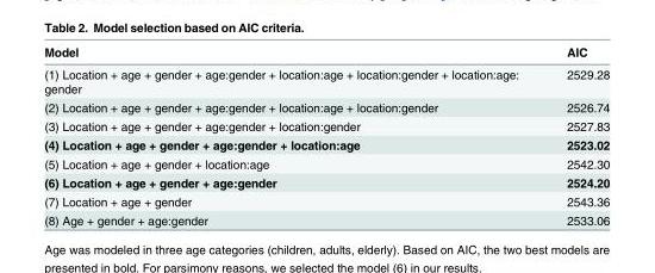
<table><thead><tr><td>Model</td><td>AIC</td></tr></thead><tbody><tr><td>(1) Location + age + gender + age:gender + location:age + location:gender + location:age: gender</td><td>2529.28</td></tr><tr><td>(2) Location + age + gender + age:gender + location:age + location:gender</td><td>2526.74</td></tr><tr><td>(3) Location + age + gender + age:gender + location:gender</td><td>2527.83</td></tr><tr><td>(4) Location + age + gender + age:gender + location:age</td><td>2523.02</td></tr><tr><td>(5) Location + age + gender + location:age</td><td>2542.30</td></tr><tr><td>(6) Location + age + gender + age:gender</td><td>2524.20</td></tr><tr><td>(7) Location + age + gender</td><td>2543.36</td></tr><tr><td>(8) Age + gender + age:gender</td><td>2533.06</td></tr></tbody></table>